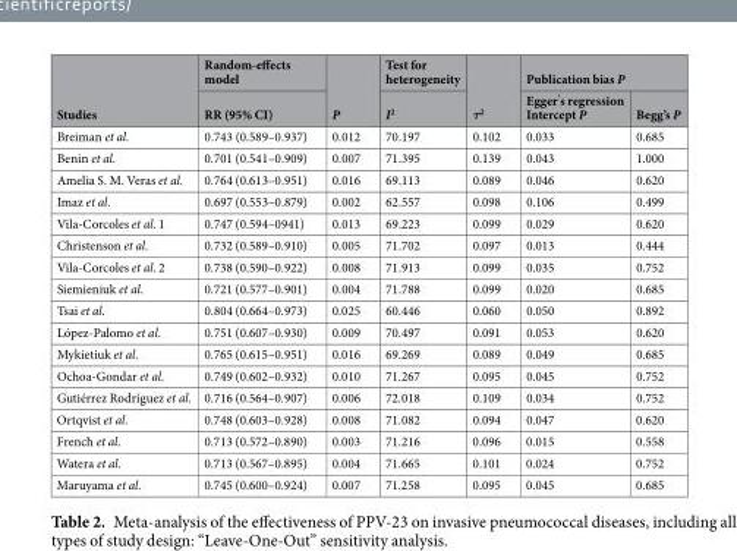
<table><thead><tr><td rowspan="2">Studies</td><td rowspan="2">Random-effects model RR (95% CI)</td><td rowspan="2">P</td><td rowspan="2">Test for heterogeneity I<sup>2</sup></td><td rowspan="2">τ<sup>2</sup></td><td colspan="2">Publication bias P</td></tr><tr><td>Egger<sup>’</sup>s regression Intercept P</td><td>Begg’s P</td></tr></thead><tbody><tr><td>Breiman et al.</td><td>0.743 (0.589–0.937)</td><td>0.012</td><td>70.197</td><td>0.102</td><td>0.033</td><td>0.685</td></tr><tr><td>Benin et al.</td><td>0.701 (0.541–0.909)</td><td>0.007</td><td>71.395</td><td>0.139</td><td>0.043</td><td>1.000</td></tr><tr><td>Amelia S. M. Veras et al.</td><td>0.764 (0.613–0.951)</td><td>0.016</td><td>69.113</td><td>0.089</td><td>0.046</td><td>0.620</td></tr><tr><td>Imaz et al.</td><td>0.697 (0.553–0.879)</td><td>0.002</td><td>62.557</td><td>0.098</td><td>0.106</td><td>0.499</td></tr><tr><td>Vila-Corcoles et al. 1</td><td>0.747 (0.594–0941)</td><td>0.013</td><td>69.223</td><td>0.099</td><td>0.029</td><td>0.620</td></tr><tr><td>Christenson et al.</td><td>0.732 (0.589–0.910)</td><td>0.005</td><td>71.702</td><td>0.097</td><td>0.013</td><td>0.444</td></tr><tr><td>Vila-Corcoles et al. 2</td><td>0.738 (0.590–0.922)</td><td>0.008</td><td>71.913</td><td>0.099</td><td>0.035</td><td>0.752</td></tr><tr><td>Siemieniuk et al.</td><td>0.721 (0.577–0.901)</td><td>0.004</td><td>71.788</td><td>0.099</td><td>0.020</td><td>0.685</td></tr><tr><td>Tsai et al.</td><td>0.804 (0.664–0.973)</td><td>0.025</td><td>60.446</td><td>0.060</td><td>0.050</td><td>0.892</td></tr><tr><td>López-Palomo et al.</td><td>0.751 (0.607–0.930)</td><td>0.009</td><td>70.497</td><td>0.091</td><td>0.053</td><td>0.620</td></tr><tr><td>Mykietiuk et al.</td><td>0.765 (0.615–0.951)</td><td>0.016</td><td>69.269</td><td>0.089</td><td>0.049</td><td>0.685</td></tr><tr><td>Ochoa-Gondar et al.</td><td>0.749 (0.602–0.932)</td><td>0.010</td><td>71.267</td><td>0.095</td><td>0.045</td><td>0.752</td></tr><tr><td>Gutiérrez Rodríguez et al.</td><td>0.716 (0.564–0.907)</td><td>0.006</td><td>72.018</td><td>0.109</td><td>0.034</td><td>0.752</td></tr><tr><td>Ortqvist et al.</td><td>0.748 (0.603–0.928)</td><td>0.008</td><td>71.082</td><td>0.094</td><td>0.047</td><td>0.620</td></tr><tr><td>French et al.</td><td>0.713 (0.572–0.890)</td><td>0.003</td><td>71.216</td><td>0.096</td><td>0.015</td><td>0.558</td></tr><tr><td>Watera et al.</td><td>0.713 (0.567–0.895)</td><td>0.004</td><td>71.665</td><td>0.101</td><td>0.024</td><td>0.752</td></tr><tr><td>Maruyama et al.</td><td>0.745 (0.600–0.924)</td><td>0.007</td><td>71.258</td><td>0.095</td><td>0.045</td><td>0.685</td></tr></tbody></table>